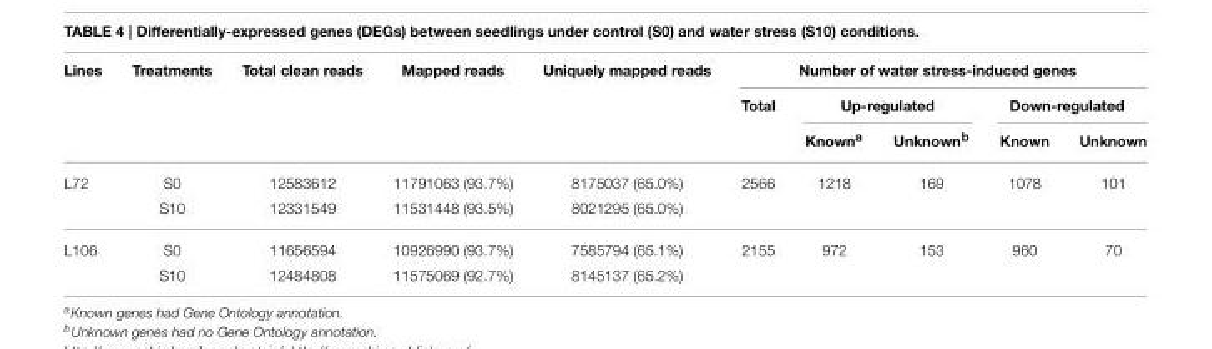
<table><thead><tr><td rowspan="3">Lines</td><td rowspan="3">Treatments</td><td rowspan="3">Total clean reads</td><td rowspan="3">Mapped reads</td><td rowspan="3">Uniquely mapped reads</td><td colspan="5">Number of water stress-induced genes</td></tr><tr><td rowspan="2">Total</td><td colspan="2">Up-regulated</td><td colspan="2">Down-regulated</td></tr><tr><td>Known<sup>a</sup></td><td>Unknown<sup>b</sup></td><td>Known</td><td>Unknown</td></tr></thead><tbody><tr><td rowspan="2">L72</td><td>S0</td><td>12583612</td><td>11791063 (93.7%)</td><td>8175037 (65.0%)</td><td>2566</td><td>1218</td><td>169</td><td>1078</td><td>101</td></tr><tr><td>S10</td><td>12331549</td><td>11531448 (93.5%)</td><td>8021295 (65.0%)</td><td></td><td></td><td></td><td></td><td></td></tr><tr><td rowspan="2">L106</td><td>S0</td><td>11656594</td><td>10926990 (93.7%)</td><td>7585794 (65.1%)</td><td>2155</td><td>972</td><td>153</td><td>960</td><td>70</td></tr><tr><td>S10</td><td>12484808</td><td>11575069 (92.7%)</td><td>8145137 (65.2%)</td><td></td><td></td><td></td><td></td><td></td></tr></tbody></table>